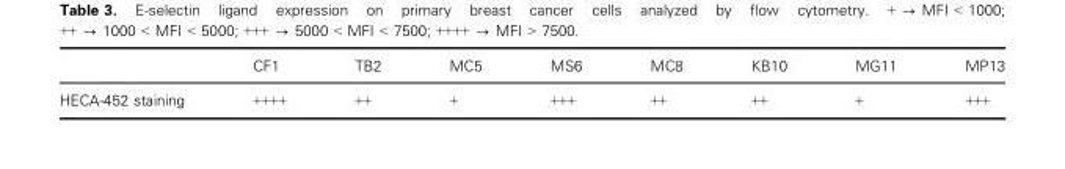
<table><thead><tr><td></td><td>CF1</td><td>TB2</td><td>MC5</td><td>MS6</td><td>MC8</td><td>KB10</td><td>MG11</td><td>MP13</td></tr></thead><tbody><tr><td>HECA-452 staining</td><td>++++</td><td>++</td><td>+</td><td>+++</td><td>++</td><td>++</td><td>+</td><td>+++</td></tr></tbody></table>